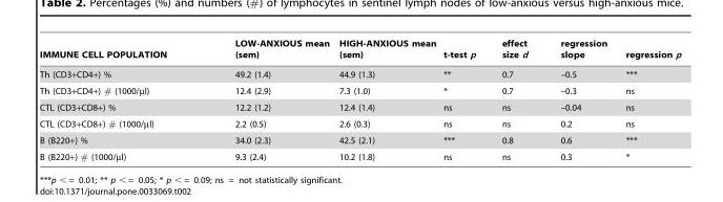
<table><thead><tr><td>IMMUNE CELL POPULATION</td><td>LOW-ANXIOUS mean (sem)</td><td>HIGH-ANXIOUS mean (sem)</td><td>t-test p</td><td>effect size d</td><td>regression slope</td><td>regression p</td></tr></thead><tbody><tr><td>Th (CD3+CD4+) %</td><td>49.2 (1.4)</td><td>44.9 (1.3)</td><td>**</td><td>0.7</td><td>–0.5</td><td>***</td></tr><tr><td>Th (CD3+CD4+) # (1000/µl)</td><td>12.4 (2.9)</td><td>7.3 (1.0)</td><td>*</td><td>0.7</td><td>–0.3</td><td>ns</td></tr><tr><td>CTL (CD3+CD8+) %</td><td>12.2 (1.2)</td><td>12.4 (1.4)</td><td>ns</td><td>ns</td><td>–0.04</td><td>ns</td></tr><tr><td>CTL (CD3+CD8+) # (1000/µl)</td><td>2.2 (0.5)</td><td>2.6 (0.3)</td><td>ns</td><td>ns</td><td>0.2</td><td>ns</td></tr><tr><td>B (B220+) %</td><td>34.0 (2.3)</td><td>42.5 (2.1)</td><td>***</td><td>0.8</td><td>0.6</td><td>***</td></tr><tr><td>B (B220+) # (1000/µl)</td><td>9.3 (2.4)</td><td>10.2 (1.8)</td><td>ns</td><td>ns</td><td>0.3</td><td>*</td></tr></tbody></table>